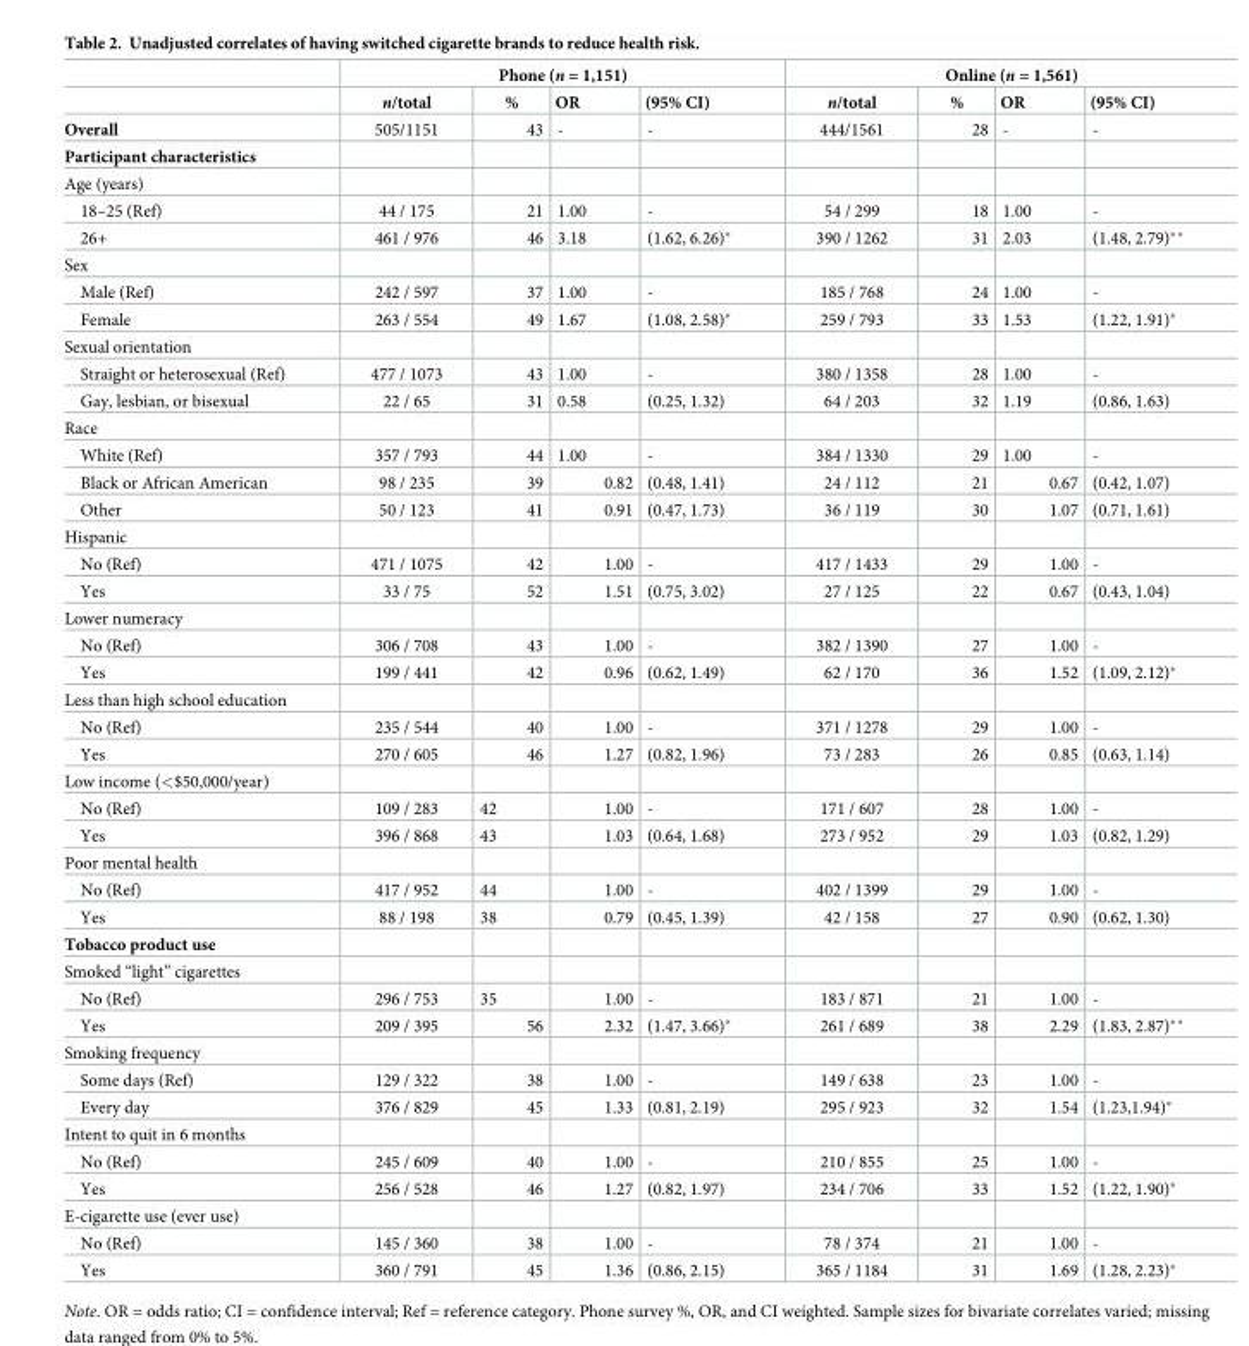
<table><thead><tr><td rowspan="2"></td><td colspan="4">Phone (n = 1,151)</td><td colspan="4">Online (n = 1,561)</td></tr><tr><td>n/total</td><td>%</td><td>OR</td><td>(95% CI)</td><td>n/total</td><td>%</td><td>OR</td><td>(95% CI)</td></tr></thead><tbody><tr><td>Overall</td><td>505/1151</td><td>43</td><td>-</td><td>-</td><td>444/1561</td><td>28</td><td>-</td><td>-</td></tr><tr><td colspan="9">Participant characteristics</td></tr><tr><td colspan="9">Age (years)</td></tr><tr><td>18–25 (Ref)</td><td>44 / 175</td><td>21</td><td>1.00</td><td>-</td><td>54 / 299</td><td>18</td><td>1.00</td><td>-</td></tr><tr><td>26+</td><td>461 / 976</td><td>46</td><td>3.18</td><td>(1.62, 6.26)*</td><td>390 / 1262</td><td>31</td><td>2.03</td><td>(1.48, 2.79)**</td></tr><tr><td colspan="9">Sex</td></tr><tr><td>Male (Ref)</td><td>242 / 597</td><td>37</td><td>1.00</td><td>-</td><td>185 / 768</td><td>24</td><td>1.00</td><td>-</td></tr><tr><td>Female</td><td>263 / 554</td><td>49</td><td>1.67</td><td>(1.08, 2.58)*</td><td>259 / 793</td><td>33</td><td>1.53</td><td>(1.22, 1.91)*</td></tr><tr><td colspan="9">Sexual orientation</td></tr><tr><td>Straight or heterosexual (Ref)</td><td>477 / 1073</td><td>43</td><td>1.00</td><td>-</td><td>380 / 1358</td><td>28</td><td>1.00</td><td>-</td></tr><tr><td>Gay, lesbian, or bisexual</td><td>22 / 65</td><td>31</td><td>0.58</td><td>(0.25, 1.32)</td><td>64 / 203</td><td>32</td><td>1.19</td><td>(0.86, 1.63)</td></tr><tr><td colspan="9">Race</td></tr><tr><td>White (Ref)</td><td>357 / 793</td><td>44</td><td>1.00</td><td>-</td><td>384 / 1330</td><td>29</td><td>1.00</td><td>-</td></tr><tr><td>Black or African American</td><td>98 / 235</td><td>39</td><td>0.82</td><td>(0.48, 1.41)</td><td>24 / 112</td><td>21</td><td>0.67</td><td>(0.42, 1.07)</td></tr><tr><td>Other</td><td>50 / 123</td><td>41</td><td>0.91</td><td>(0.47, 1.73)</td><td>36 / 119</td><td>30</td><td>1.07</td><td>(0.71, 1.61)</td></tr><tr><td colspan="9">Hispanic</td></tr><tr><td>No (Ref)</td><td>471 / 1075</td><td>42</td><td>1.00</td><td>-</td><td>417 / 1433</td><td>29</td><td>1.00</td><td>-</td></tr><tr><td>Yes</td><td>33 / 75</td><td>52</td><td>1.51</td><td>(0.75, 3.02)</td><td>27 / 125</td><td>22</td><td>0.67</td><td>(0.43, 1.04)</td></tr><tr><td colspan="9">Lower numeracy</td></tr><tr><td>No (Ref)</td><td>306 / 708</td><td>43</td><td>1.00</td><td>-</td><td>382 / 1390</td><td>27</td><td>1.00</td><td>-</td></tr><tr><td>Yes</td><td>199 / 441</td><td>42</td><td>0.96</td><td>(0.62, 1.49)</td><td>62 / 170</td><td>36</td><td>1.52</td><td>(1.09, 2.12)*</td></tr><tr><td colspan="9">Less than high school education</td></tr><tr><td>No (Ref)</td><td>235 / 544</td><td>40</td><td>1.00</td><td>-</td><td>371 / 1278</td><td>29</td><td>1.00</td><td>-</td></tr><tr><td>Yes</td><td>270 / 605</td><td>46</td><td>1.27</td><td>(0.82, 1.96)</td><td>73 / 283</td><td>26</td><td>0.85</td><td>(0.63, 1.14)</td></tr><tr><td colspan="9">Low income (&lt;$50,000/year)</td></tr><tr><td>No (Ref)</td><td>109 / 283</td><td>42</td><td>1.00</td><td>-</td><td>171 / 607</td><td>28</td><td>1.00</td><td>-</td></tr><tr><td>Yes</td><td>396 / 868</td><td>43</td><td>1.03</td><td>(0.64, 1.68)</td><td>273 / 952</td><td>29</td><td>1.03</td><td>(0.82, 1.29)</td></tr><tr><td colspan="9">Poor mental health</td></tr><tr><td>No (Ref)</td><td>417 / 952</td><td>44</td><td>1.00</td><td>-</td><td>402 / 1399</td><td>29</td><td>1.00</td><td>-</td></tr><tr><td>Yes</td><td>88 / 198</td><td>38</td><td>0.79</td><td>(0.45, 1.39)</td><td>42 / 158</td><td>27</td><td>0.90</td><td>(0.62, 1.30)</td></tr><tr><td colspan="9">Tobacco product use</td></tr><tr><td colspan="9">Smoked “light” cigarettes</td></tr><tr><td>No (Ref)</td><td>296 / 753</td><td>35</td><td>1.00</td><td>-</td><td>183 / 871</td><td>21</td><td>1.00</td><td>-</td></tr><tr><td>Yes</td><td>209 / 395</td><td>56</td><td>2.32</td><td>(1.47, 3.66)*</td><td>261 / 689</td><td>38</td><td>2.29</td><td>(1.83, 2.87)**</td></tr><tr><td colspan="9">Smoking frequency</td></tr><tr><td>Some days (Ref)</td><td>129 / 322</td><td>38</td><td>1.00</td><td>-</td><td>149 / 638</td><td>23</td><td>1.00</td><td>-</td></tr><tr><td>Every day</td><td>376 / 829</td><td>45</td><td>1.33</td><td>(0.81, 2.19)</td><td>295 / 923</td><td>32</td><td>1.54</td><td>(1.23,1.94)*</td></tr><tr><td colspan="9">Intent to quit in 6 months</td></tr><tr><td>No (Ref)</td><td>245 / 609</td><td>40</td><td>1.00</td><td>-</td><td>210 / 855</td><td>25</td><td>1.00</td><td>-</td></tr><tr><td>Yes</td><td>256 / 528</td><td>46</td><td>1.27</td><td>(0.82, 1.97)</td><td>234 / 706</td><td>33</td><td>1.52</td><td>(1.22, 1.90)*</td></tr><tr><td colspan="9">E-cigarette use (ever use)</td></tr><tr><td>No (Ref)</td><td>145 / 360</td><td>38</td><td>1.00</td><td>-</td><td>78 / 374</td><td>21</td><td>1.00</td><td>-</td></tr><tr><td>Yes</td><td>360 / 791</td><td>45</td><td>1.36</td><td>(0.86, 2.15)</td><td>365 / 1184</td><td>31</td><td>1.69</td><td>(1.28, 2.23)*</td></tr></tbody></table>